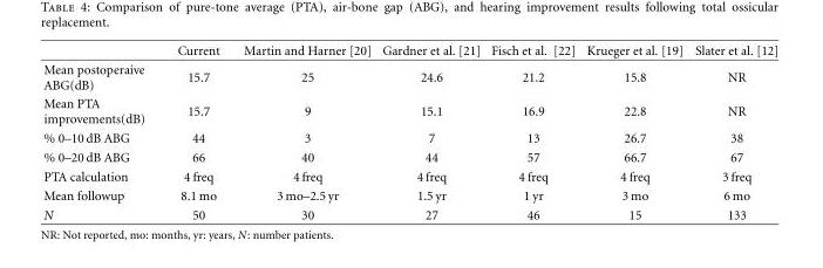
<table><thead><tr><td></td><td>Current</td><td>Martin and Harner [20]</td><td>Gardner et al. [21]</td><td>Fisch et al. [22]</td><td>Krueger et al. [19]</td><td>Slater et al. [12]</td></tr></thead><tbody><tr><td>Mean postoperaive ABG(dB)</td><td>15.7</td><td>25</td><td>24.6</td><td>21.2</td><td>15.8</td><td>NR</td></tr><tr><td>Mean PTA improvements(dB)</td><td>15.7</td><td>9</td><td>15.1</td><td>16.9</td><td>22.8</td><td>NR</td></tr><tr><td>% 0–10 dB ABG</td><td>44</td><td>3</td><td>7</td><td>13</td><td>26.7</td><td>38</td></tr><tr><td>% 0–20 dB ABG</td><td>66</td><td>40</td><td>44</td><td>57</td><td>66.7</td><td>67</td></tr><tr><td>PTA calculation</td><td>4 freq</td><td>4 freq</td><td>4 freq</td><td>4 freq</td><td>4 freq</td><td>3 freq</td></tr><tr><td>Mean followup</td><td>8.1 mo</td><td>3 mo–2.5 yr</td><td>1.5 yr</td><td>1 yr</td><td>3 mo</td><td>6 mo</td></tr><tr><td>N</td><td>50</td><td>30</td><td>27</td><td>46</td><td>15</td><td>133</td></tr></tbody></table>